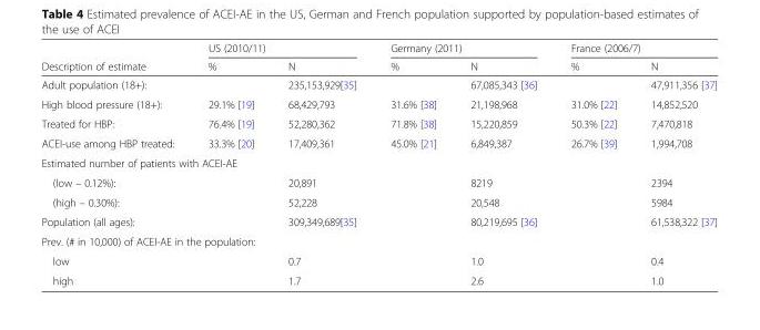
<table><thead><tr><td rowspan="2">Description of estimate</td><td colspan="2">US (2010/11)</td><td colspan="2">Germany (2011)</td><td colspan="2">France (2006/7)</td></tr><tr><td>%</td><td>N</td><td>%</td><td>N</td><td>%</td><td>N</td></tr></thead><tbody><tr><td>Adult population (18+):</td><td></td><td>235,153,929[35]</td><td></td><td>67,085,343 [36]</td><td></td><td>47,911,356 [37]</td></tr><tr><td>High blood pressure (18+):</td><td>29.1% [19]</td><td>68,429,793</td><td>31.6% [38]</td><td>21,198,968</td><td>31.0% [22]</td><td>14,852,520</td></tr><tr><td>Treated for HBP:</td><td>76.4% [19]</td><td>52,280,362</td><td>71.8% [38]</td><td>15,220,859</td><td>50.3% [22]</td><td>7,470,818</td></tr><tr><td>ACEI-use among HBP treated:</td><td>33.3% [20]</td><td>17,409,361</td><td>45.0% [21]</td><td>6,849,387</td><td>26.7% [39]</td><td>1,994,708</td></tr><tr><td colspan="7">Estimated number of patients with ACEI-AE</td></tr><tr><td>(low – 0.12%):</td><td></td><td>20,891</td><td></td><td>8219</td><td></td><td>2394</td></tr><tr><td>(high – 0.30%):</td><td></td><td>52,228</td><td></td><td>20,548</td><td></td><td>5984</td></tr><tr><td>Population (all ages):</td><td></td><td>309,349,689[35]</td><td></td><td>80,219,695 [36]</td><td></td><td>61,538,322 [37]</td></tr><tr><td colspan="7">Prev. (# in 10,000) of ACEI-AE in the population:</td></tr><tr><td>low</td><td></td><td>0.7</td><td></td><td>1.0</td><td></td><td>0.4</td></tr><tr><td>high</td><td></td><td>1.7</td><td></td><td>2.6</td><td></td><td>1.0</td></tr></tbody></table>